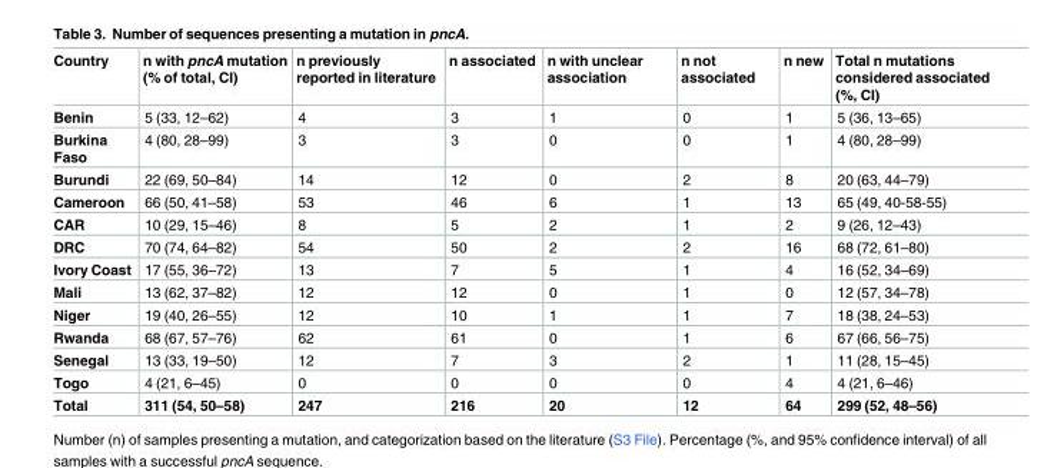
<table><thead><tr><td>Country</td><td>n with pncA mutation (% of total, CI)</td><td>n previously reported in literature</td><td>n associated</td><td>n with unclear association</td><td>n not associated</td><td>n new</td><td>Total n mutations considered associated (%, CI)</td></tr></thead><tbody><tr><td>Benin</td><td>5 (33, 12–62)</td><td>4</td><td>3</td><td>1</td><td>0</td><td>1</td><td>5 (36, 13–65)</td></tr><tr><td>Burkina Faso</td><td>4 (80, 28–99)</td><td>3</td><td>3</td><td>0</td><td>0</td><td>1</td><td>4 (80, 28–99)</td></tr><tr><td>Burundi</td><td>22 (69, 50–84)</td><td>14</td><td>12</td><td>0</td><td>2</td><td>8</td><td>20 (63, 44–79)</td></tr><tr><td>Cameroon</td><td>66 (50, 41–58)</td><td>53</td><td>46</td><td>6</td><td>1</td><td>13</td><td>65 (49, 40-58-55)</td></tr><tr><td>CAR</td><td>10 (29, 15–46)</td><td>8</td><td>5</td><td>2</td><td>1</td><td>2</td><td>9 (26, 12–43)</td></tr><tr><td>DRC</td><td>70 (74, 64–82)</td><td>54</td><td>50</td><td>2</td><td>2</td><td>16</td><td>68 (72, 61–80)</td></tr><tr><td>Ivory Coast</td><td>17 (55, 36–72)</td><td>13</td><td>7</td><td>5</td><td>1</td><td>4</td><td>16 (52, 34–69)</td></tr><tr><td>Mali</td><td>13 (62, 37–82)</td><td>12</td><td>12</td><td>0</td><td>1</td><td>0</td><td>12 (57, 34–78)</td></tr><tr><td>Niger</td><td>19 (40, 26–55)</td><td>12</td><td>10</td><td>1</td><td>1</td><td>7</td><td>18 (38, 24–53)</td></tr><tr><td>Rwanda</td><td>68 (67, 57–76)</td><td>62</td><td>61</td><td>0</td><td>1</td><td>6</td><td>67 (66, 56–75)</td></tr><tr><td>Senegal</td><td>13 (33, 19–50)</td><td>12</td><td>7</td><td>3</td><td>2</td><td>1</td><td>11 (28, 15–45)</td></tr><tr><td>Togo</td><td>4 (21, 6–45)</td><td>0</td><td>0</td><td>0</td><td>0</td><td>4</td><td>4 (21, 6–46)</td></tr><tr><td>Total</td><td>311 (54, 50–58)</td><td>247</td><td>216</td><td>20</td><td>12</td><td>64</td><td>299 (52, 48–56)</td></tr></tbody></table>